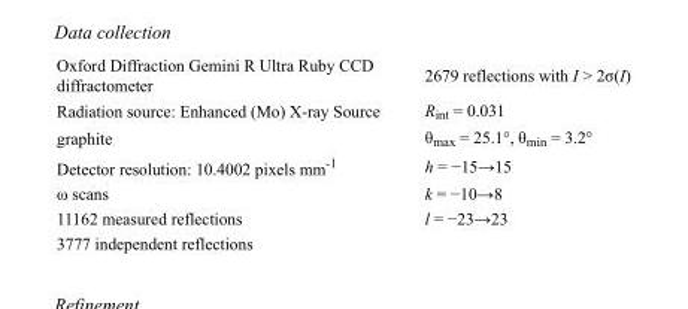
<table><tbody><tr><td>Oxford Diffraction Gemini R Ultra Ruby CCD diffractometer</td><td>2679 reflections with I &gt; 2σ(I)</td></tr><tr><td>Radiation source: Enhanced (Mo) X-ray Source</td><td>R<sub>int</sub> = 0.031</td></tr><tr><td>graphite</td><td>θ<sub>max</sub> = 25.1°, θ<sub>min</sub> = 3.2°</td></tr><tr><td>Detector resolution: 10.4002 pixels mm<sup>-1</sup></td><td>h = −15→15</td></tr><tr><td>ω scans</td><td>k = −10→8</td></tr><tr><td>11162 measured reflections</td><td>l = −23→23</td></tr><tr><td>3777 independent reflections</td><td></td></tr></tbody></table>